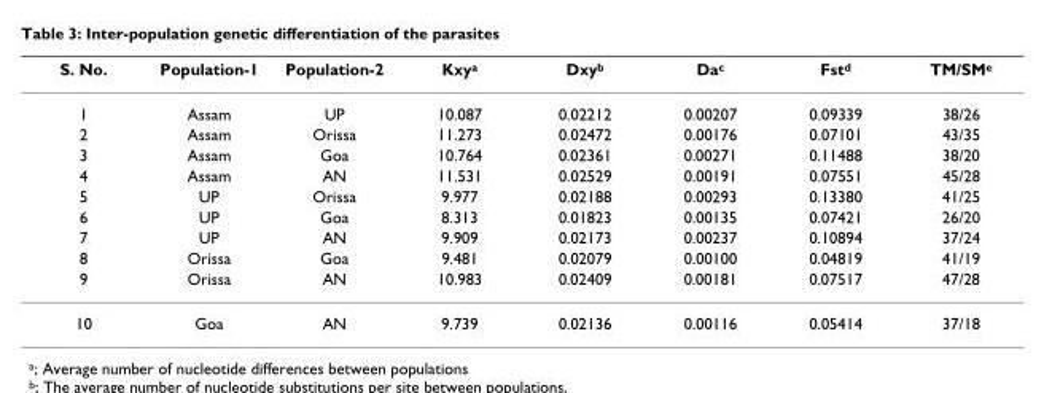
<table><thead><tr><td>S. No.</td><td>Population-1</td><td>Population-2</td><td>Kxy<sup>a</sup></td><td>Dxy<sup>b</sup></td><td>Da<sup>c</sup></td><td>Fst<sup>d</sup></td><td>TM/SM<sup>e</sup></td></tr></thead><tbody><tr><td>1</td><td>Assam</td><td>UP</td><td>10.087</td><td>0.02212</td><td>0.00207</td><td>0.09339</td><td>38/26</td></tr><tr><td>2</td><td>Assam</td><td>Orissa</td><td>11.273</td><td>0.02472</td><td>0.00176</td><td>0.07101</td><td>43/35</td></tr><tr><td>3</td><td>Assam</td><td>Goa</td><td>10.764</td><td>0.02361</td><td>0.00271</td><td>0.11488</td><td>38/20</td></tr><tr><td>4</td><td>Assam</td><td>AN</td><td>11.531</td><td>0.02529</td><td>0.00191</td><td>0.07551</td><td>45/28</td></tr><tr><td>5</td><td>UP</td><td>Orissa</td><td>9.977</td><td>0.02188</td><td>0.00293</td><td>0.13380</td><td>41/25</td></tr><tr><td>6</td><td>UP</td><td>Goa</td><td>8.313</td><td>0.01823</td><td>0.00135</td><td>0.07421</td><td>26/20</td></tr><tr><td>7</td><td>UP</td><td>AN</td><td>9.909</td><td>0.02173</td><td>0.00237</td><td>0.10894</td><td>37/24</td></tr><tr><td>8</td><td>Orissa</td><td>Goa</td><td>9.481</td><td>0.02079</td><td>0.00100</td><td>0.04819</td><td>41/19</td></tr><tr><td>9</td><td>Orissa</td><td>AN</td><td>10.983</td><td>0.02409</td><td>0.00181</td><td>0.07517</td><td>47/28</td></tr><tr><td>10</td><td>Goa</td><td>AN</td><td>9.739</td><td>0.02136</td><td>0.00116</td><td>0.05414</td><td>37/18</td></tr></tbody></table>